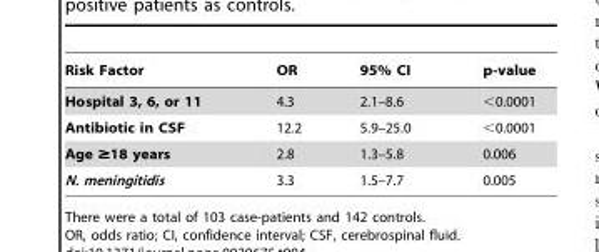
<table><thead><tr><td>Risk Factor</td><td>OR</td><td>95% CI</td><td>p-value</td></tr></thead><tbody><tr><td>Hospital 3, 6, or 11</td><td>4.3</td><td>2.1–8.6</td><td>&lt;0.0001</td></tr><tr><td>Antibiotic in CSF</td><td>12.2</td><td>5.9–25.0</td><td>&lt;0.0001</td></tr><tr><td>Age ≥18 years</td><td>2.8</td><td>1.3–5.8</td><td>0.006</td></tr><tr><td>N. meningitidis</td><td>3.3</td><td>1.5–7.7</td><td>0.005</td></tr></tbody></table>